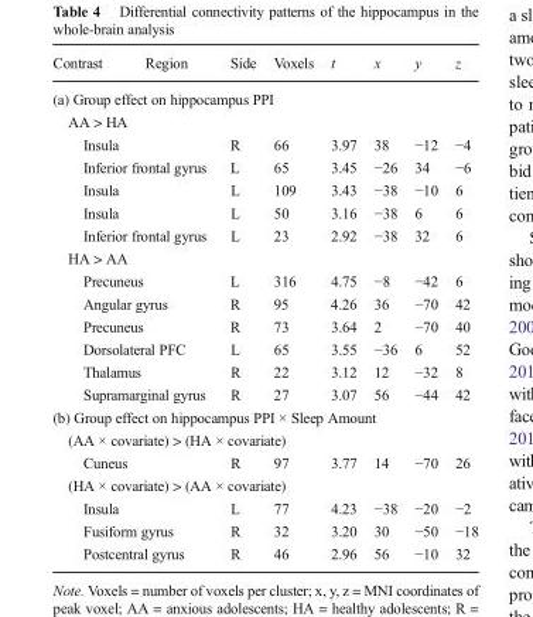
<table><thead><tr><td>Contrast</td><td>Region</td><td>Side</td><td>Voxels</td><td>t</td><td>x</td><td>y</td><td>z</td></tr></thead><tbody><tr><td colspan="8">(a) Group effect on hippocampus PPI</td></tr><tr><td colspan="8">AA &gt; HA</td></tr><tr><td colspan="2">Insula</td><td>R</td><td>66</td><td>3.97</td><td>38</td><td>−12</td><td>−4</td></tr><tr><td colspan="2">Inferior frontal gyrus</td><td>L</td><td>65</td><td>3.45</td><td>−26</td><td>34</td><td>−6</td></tr><tr><td colspan="2">Insula</td><td>L</td><td>109</td><td>3.43</td><td>−38</td><td>−10</td><td>6</td></tr><tr><td colspan="2">Insula</td><td>L</td><td>50</td><td>3.16</td><td>−38</td><td>6</td><td>6</td></tr><tr><td colspan="2">Inferior frontal gyrus</td><td>L</td><td>23</td><td>2.92</td><td>−38</td><td>32</td><td>6</td></tr><tr><td colspan="8">HA &gt; AA</td></tr><tr><td colspan="2">Precuneus</td><td>L</td><td>316</td><td>4.75</td><td>−8</td><td>−42</td><td>6</td></tr><tr><td colspan="2">Angular gyrus</td><td>R</td><td>95</td><td>4.26</td><td>36</td><td>−70</td><td>42</td></tr><tr><td colspan="2">Precuneus</td><td>R</td><td>73</td><td>3.64</td><td>2</td><td>−70</td><td>40</td></tr><tr><td colspan="2">Dorsolateral PFC</td><td>L</td><td>65</td><td>3.55</td><td>−36</td><td>6</td><td>52</td></tr><tr><td colspan="2">Thalamus</td><td>R</td><td>22</td><td>3.12</td><td>12</td><td>−32</td><td>8</td></tr><tr><td colspan="2">Supramarginal gyrus</td><td>R</td><td>27</td><td>3.07</td><td>56</td><td>−44</td><td>42</td></tr><tr><td colspan="8">(b) Group effect on hippocampus PPI × Sleep Amount</td></tr><tr><td colspan="8">(AA × covariate) &gt; (HA × covariate)</td></tr><tr><td colspan="2">Cuneus</td><td>R</td><td>97</td><td>3.77</td><td>14</td><td>−70</td><td>26</td></tr><tr><td colspan="8">(HA × covariate) &gt; (AA × covariate)</td></tr><tr><td colspan="2">Insula</td><td>L</td><td>77</td><td>4.23</td><td>−38</td><td>−20</td><td>−2</td></tr><tr><td colspan="2">Fusiform gyrus</td><td>R</td><td>32</td><td>3.20</td><td>30</td><td>−50</td><td>−18</td></tr><tr><td colspan="2">Postcentral gyrus</td><td>R</td><td>46</td><td>2.96</td><td>56</td><td>−10</td><td>32</td></tr></tbody></table>